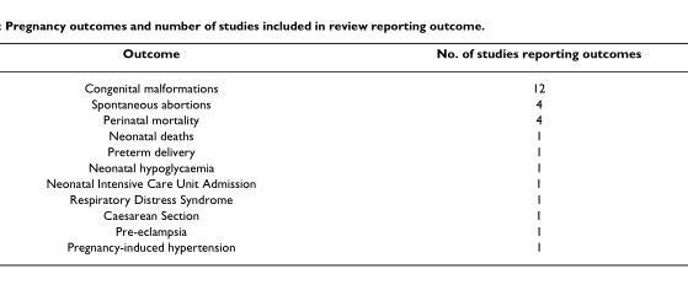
<table><thead><tr><td>Outcome</td><td>No. of studies reporting outcomes</td></tr></thead><tbody><tr><td>Congenital malformations</td><td>12</td></tr><tr><td>Spontaneous abortions</td><td>4</td></tr><tr><td>Perinatal mortality</td><td>4</td></tr><tr><td>Neonatal deaths</td><td>1</td></tr><tr><td>Preterm delivery</td><td>1</td></tr><tr><td>Neonatal hypoglycaemia</td><td>1</td></tr><tr><td>Neonatal Intensive Care Unit Admission</td><td>1</td></tr><tr><td>Respiratory Distress Syndrome</td><td>1</td></tr><tr><td>Caesarean Section</td><td>1</td></tr><tr><td>Pre-eclampsia</td><td>1</td></tr><tr><td>Pregnancy-induced hypertension</td><td>1</td></tr></tbody></table>